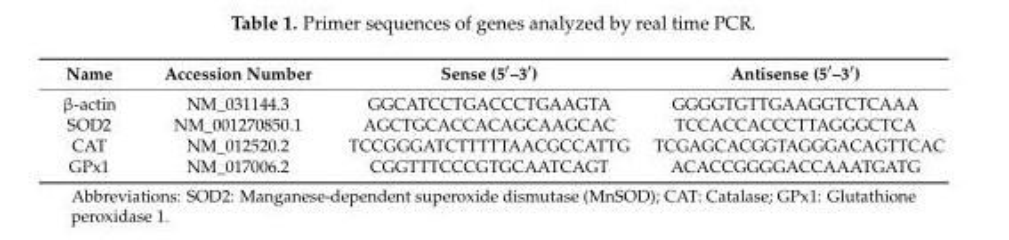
<table><thead><tr><td>Name</td><td>Accession Number</td><td>Sense (5′–3′)</td><td>Antisense (5′–3′)</td></tr></thead><tbody><tr><td>β-actin</td><td>NM_031144.3</td><td>GGCATCCTGACCCTGAAGTA</td><td>GGGGTGTTGAAGGTCTCAAA</td></tr><tr><td>SOD2</td><td>NM_001270850.1</td><td>AGCTGCACCACAGCAAGCAC</td><td>TCCACCACCCTTAGGGCTCA</td></tr><tr><td>CAT</td><td>NM_012520.2</td><td>TCCGGGATCTTTTTAACGCCATTG</td><td>TCGAGCACGGTAGGGACAGTTCAC</td></tr><tr><td>GPx1</td><td>NM_017006.2</td><td>CGGTTTCCCGTGCAATCAGT</td><td>ACACCGGGGACCAAATGATG</td></tr></tbody></table>